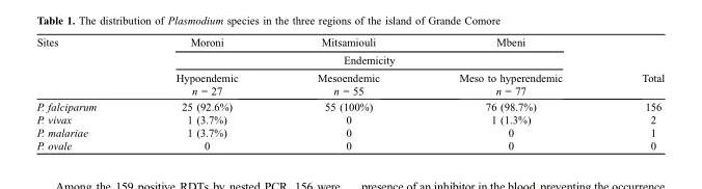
<table><thead><tr><td rowspan="4">Sites</td><td>Moroni</td><td>Mitsamiouli</td><td>Mbeni</td><td rowspan="4">Total</td></tr><tr><td colspan="3">Endemicity</td></tr><tr><td rowspan="2">Hypoendemic n = 27</td><td rowspan="2">Mesoendemic n = 55</td><td rowspan="2">Meso to hyperendemic n = 77</td></tr><tr></tr></thead><tbody><tr><td>P. falciparum</td><td>25 (92.6%)</td><td>55 (100%)</td><td>76 (98.7%)</td><td>156</td></tr><tr><td>P. vivax</td><td>1 (3.7%)</td><td>0</td><td>1 (1.3%)</td><td>2</td></tr><tr><td>P. malariae</td><td>1 (3.7%)</td><td>0</td><td>0</td><td>1</td></tr><tr><td>P. ovale</td><td>0</td><td>0</td><td>0</td><td>0</td></tr></tbody></table>